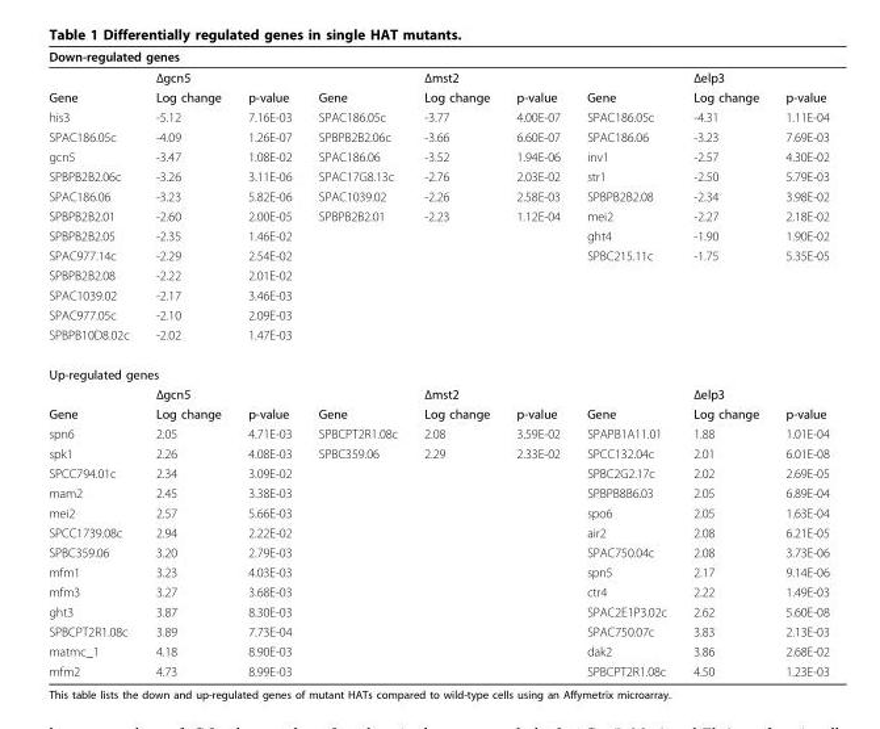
<table><thead><tr><td colspan="9">Down-regulated genes</td></tr><tr><td rowspan="2">Gene</td><td colspan="3">Δgcn5</td><td colspan="3">Δmst2</td><td colspan="2">Δelp3</td></tr><tr><td>Log change</td><td>p-value</td><td>Gene</td><td>Log change</td><td>p-value</td><td>Gene</td><td>Log change</td><td>p-value</td></tr></thead><tbody><tr><td>his3</td><td>-5.12</td><td>7.16E-03</td><td>SPAC186.05c</td><td>-3.77</td><td>4.00E-07</td><td>SPAC186.05c</td><td>-4.31</td><td>1.11E-04</td></tr><tr><td>SPAC186.05c</td><td>-4.09</td><td>1.26E-07</td><td>SPBPB2B2.06c</td><td>-3.66</td><td>6.60E-07</td><td>SPAC186.06</td><td>-3.23</td><td>7.69E-03</td></tr><tr><td>gcn5</td><td>-3.47</td><td>1.08E-02</td><td>SPAC186.06</td><td>-3.52</td><td>1.94E-06</td><td>inv1</td><td>-2.57</td><td>4.30E-02</td></tr><tr><td>SPBPB2B2.06c</td><td>-3.26</td><td>3.11E-06</td><td>SPAC17G8.13c</td><td>-2.76</td><td>2.03E-02</td><td>str1</td><td>-2.50</td><td>5.79E-03</td></tr><tr><td>SPAC186.06</td><td>-3.23</td><td>5.82E-06</td><td>SPAC1039.02</td><td>-2.26</td><td>2.58E-03</td><td>SPBPB2B2.08</td><td>-2.34</td><td>3.98E-02</td></tr><tr><td>SPBPB2B2.01</td><td>-2.60</td><td>2.00E-05</td><td>SPBPB2B2.01</td><td>-2.23</td><td>1.12E-04</td><td>mei2</td><td>-2.27</td><td>2.18E-02</td></tr><tr><td>SPBPB2B2.05</td><td>-2.35</td><td>1.46E-02</td><td></td><td></td><td></td><td>ght4</td><td>-1.90</td><td>1.90E-02</td></tr><tr><td>SPAC977.14c</td><td>-2.29</td><td>2.54E-02</td><td></td><td></td><td></td><td>SPBC215.11c</td><td>-1.75</td><td>5.35E-05</td></tr><tr><td>SPBPB2B2.08</td><td>-2.22</td><td>2.01E-02</td><td></td><td></td><td></td><td></td><td></td><td></td></tr><tr><td>SPAC1039.02</td><td>-2.17</td><td>3.46E-03</td><td></td><td></td><td></td><td></td><td></td><td></td></tr><tr><td>SPAC977.05c</td><td>-2.10</td><td>2.09E-03</td><td></td><td></td><td></td><td></td><td></td><td></td></tr><tr><td>SPBPB10D8.02c</td><td>-2.02</td><td>1.47E-03</td><td></td><td></td><td></td><td></td><td></td><td></td></tr><tr><td colspan="9">Up-regulated genes</td></tr><tr><td></td><td colspan="3">Δgcn5</td><td colspan="3">Δmst2</td><td colspan="2">Δelp3</td></tr><tr><td>Gene</td><td>Log change</td><td>p-value</td><td>Gene</td><td>Log change</td><td>p-value</td><td>Gene</td><td>Log change</td><td>p-value</td></tr><tr><td>spn6</td><td>2.05</td><td>4.71E-03</td><td>SPBCPT2R1.08c</td><td>2.08</td><td>3.59E-02</td><td>SPAPB1A11.01</td><td>1.88</td><td>1.01E-04</td></tr><tr><td>spk1</td><td>2.26</td><td>4.08E-03</td><td>SPBC359.06</td><td>2.29</td><td>2.33E-02</td><td>SPCC132.04c</td><td>2.01</td><td>6.01E-08</td></tr><tr><td>SPCC794.01c</td><td>2.34</td><td>3.09E-02</td><td></td><td></td><td></td><td>SPBC2G2.17c</td><td>2.02</td><td>2.69E-05</td></tr><tr><td>mam2</td><td>2.45</td><td>3.38E-03</td><td></td><td></td><td></td><td>SPBPB8B6.03</td><td>2.05</td><td>6.89E-04</td></tr><tr><td>mei2</td><td>2.57</td><td>5.66E-03</td><td></td><td></td><td></td><td>spo6</td><td>2.05</td><td>1.63E-04</td></tr><tr><td>SPCC1739.08c</td><td>2.94</td><td>2.22E-02</td><td></td><td></td><td></td><td>air2</td><td>2.08</td><td>6.21E-05</td></tr><tr><td>SPBC359.06</td><td>3.20</td><td>2.79E-03</td><td></td><td></td><td></td><td>SPAC750.04c</td><td>2.08</td><td>3.73E-06</td></tr><tr><td>mfm1</td><td>3.23</td><td>4.03E-03</td><td></td><td></td><td></td><td>spn5</td><td>2.17</td><td>9.14E-06</td></tr><tr><td>mfm3</td><td>3.27</td><td>3.68E-03</td><td></td><td></td><td></td><td>ctr4</td><td>2.22</td><td>1.49E-03</td></tr><tr><td>ght3</td><td>3.87</td><td>8.30E-03</td><td></td><td></td><td></td><td>SPAC2E1P3.02c</td><td>2.62</td><td>5.60E-08</td></tr><tr><td>SPBCPT2R1.08c</td><td>3.89</td><td>7.73E-04</td><td></td><td></td><td></td><td>SPAC750.07c</td><td>3.83</td><td>2.13E-03</td></tr><tr><td>matmc_1</td><td>4.18</td><td>8.90E-03</td><td></td><td></td><td></td><td>dak2</td><td>3.86</td><td>2.68E-02</td></tr><tr><td>mfm2</td><td>4.73</td><td>8.99E-03</td><td></td><td></td><td></td><td>SPBCPT2R1.08c</td><td>4.50</td><td>1.23E-03</td></tr></tbody></table>